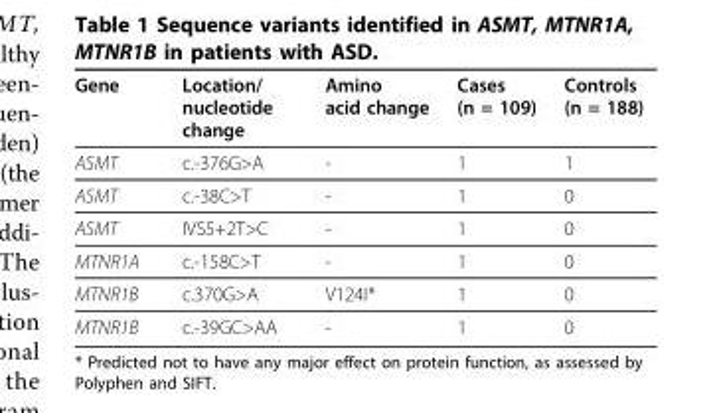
<table><thead><tr><td>Gene</td><td>Location/ nucleotide change</td><td>Amino acid change</td><td>Cases (n = 109)</td><td>Controls (n = 188)</td></tr></thead><tbody><tr><td>ASMT</td><td>c.-376G&gt;A</td><td>-</td><td>1</td><td>1</td></tr><tr><td>ASMT</td><td>c.-38C&gt;T</td><td>-</td><td>1</td><td>0</td></tr><tr><td>ASMT</td><td>IVS5+2T&gt;C</td><td>-</td><td>1</td><td>0</td></tr><tr><td>MTNR1A</td><td>c.-158C&gt;T</td><td>-</td><td>1</td><td>0</td></tr><tr><td>MTNR1B</td><td>c.370G&gt;A</td><td>V124I*</td><td>1</td><td>0</td></tr><tr><td>MTNR1B</td><td>c.-39GC&gt;AA</td><td>-</td><td>1</td><td>0</td></tr></tbody></table>